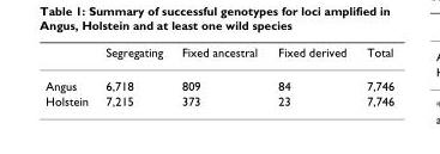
<table><thead><tr><td></td><td>Segregating</td><td>Fixed ancestral</td><td>Fixed derived</td><td>Total</td></tr></thead><tbody><tr><td>Angus</td><td>6,718</td><td>809</td><td>84</td><td>7,746</td></tr><tr><td>Holstein</td><td>7,215</td><td>373</td><td>23</td><td>7,746</td></tr></tbody></table>